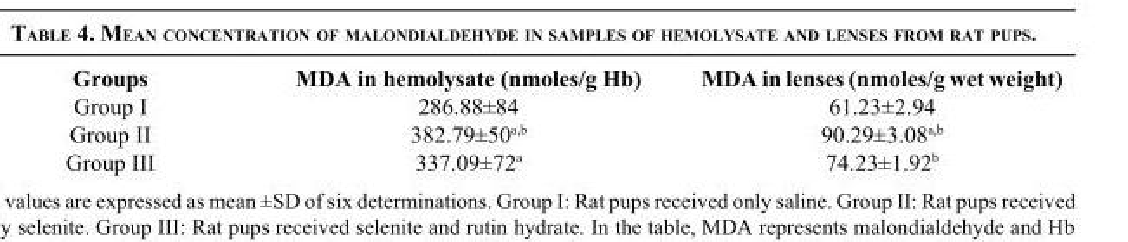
<table><thead><tr><td>Groups</td><td>MDA in hemolysate (nmoles/g Hb)</td><td>MDA in lenses (nmoles/g wet weight)</td></tr></thead><tbody><tr><td>Group I</td><td>286.88±84</td><td>61.23±2.94</td></tr><tr><td>Group II</td><td>382.79±50<sup>a,b</sup></td><td>90.29±3.08<sup>a,b</sup></td></tr><tr><td>Group III</td><td>337.09±72<sup>a</sup></td><td>74.23±1.92<sup>b</sup></td></tr></tbody></table>